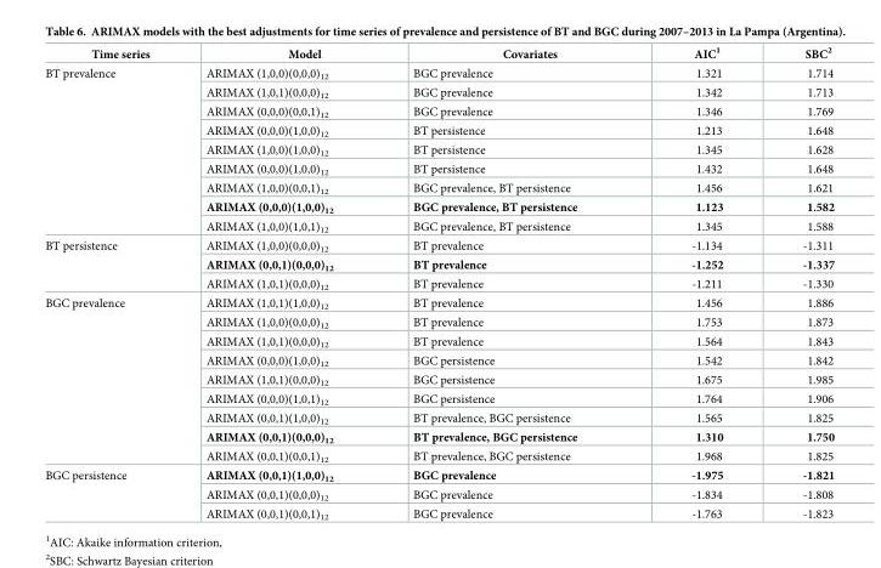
<table><thead><tr><td>Time series</td><td>Model</td><td>Covariates</td><td>AIC<sup>1</sup></td><td>SBC<sup>2</sup></td></tr></thead><tbody><tr><td rowspan="9">BT prevalence</td><td>ARIMAX (1,0,0)(0,0,0)<sub>12</sub></td><td>BGC prevalence</td><td>1.321</td><td>1.714</td></tr><tr><td>ARIMAX (1,0,1)(0,0,0)<sub>12</sub></td><td>BGC prevalence</td><td>1.342</td><td>1.713</td></tr><tr><td>ARIMAX (0,0,0)(0,0,1)<sub>12</sub></td><td>BGC prevalence</td><td>1.346</td><td>1.769</td></tr><tr><td>ARIMAX (0,0,0)(1,0,0)<sub>12</sub></td><td>BT persistence</td><td>1.213</td><td>1.648</td></tr><tr><td>ARIMAX (1,0,0)(1,0,0)<sub>12</sub></td><td>BT persistence</td><td>1.345</td><td>1.628</td></tr><tr><td>ARIMAX (0,0,0)(1,0,0)<sub>12</sub></td><td>BT persistence</td><td>1.432</td><td>1.648</td></tr><tr><td>ARIMAX (1,0,0)(0,0,1)<sub>12</sub></td><td>BGC prevalence, BT persistence</td><td>1.456</td><td>1.621</td></tr><tr><td>ARIMAX (0,0,0)(1,0,0)<sub>12</sub></td><td>BGC prevalence, BT persistence</td><td>1.123</td><td>1.582</td></tr><tr><td>ARIMAX (1,0,0)(1,0,1)<sub>12</sub></td><td>BGC prevalence, BT persistence</td><td>1.345</td><td>1.588</td></tr><tr><td rowspan="3">BT persistence</td><td>ARIMAX (1,0,0)(0,0,0)<sub>12</sub></td><td>BT prevalence</td><td>-1.134</td><td>-1.311</td></tr><tr><td>ARIMAX (0,0,1)(0,0,0)<sub>12</sub></td><td>BT prevalence</td><td>-1.252</td><td>-1.337</td></tr><tr><td>ARIMAX (1,0,1)(0,0,0)<sub>12</sub></td><td>BT prevalence</td><td>-1.211</td><td>-1.330</td></tr><tr><td rowspan="9">BGC prevalence</td><td>ARIMAX (1,0,1)(1,0,0)<sub>12</sub></td><td>BT prevalence</td><td>1.456</td><td>1.886</td></tr><tr><td>ARIMAX (1,0,0)(0,0,0)<sub>12</sub></td><td>BT prevalence</td><td>1.753</td><td>1.873</td></tr><tr><td>ARIMAX (1,0,1)(0,0,0)<sub>12</sub></td><td>BT prevalence</td><td>1.564</td><td>1.843</td></tr><tr><td>ARIMAX (0,0,0)(1,0,0)<sub>12</sub></td><td>BGC persistence</td><td>1.542</td><td>1.842</td></tr><tr><td>ARIMAX (1,0,1)(0,0,0)<sub>12</sub></td><td>BGC persistence</td><td>1.675</td><td>1.985</td></tr><tr><td>ARIMAX (0,0,0)(1,0,1)<sub>12</sub></td><td>BGC persistence</td><td>1.764</td><td>1.906</td></tr><tr><td>ARIMAX (0,0,1)(1,0,0)<sub>12</sub></td><td>BT prevalence, BGC persistence</td><td>1.565</td><td>1.825</td></tr><tr><td>ARIMAX (0,0,1)(0,0,0)<sub>12</sub></td><td>BT prevalence, BGC persistence</td><td>1.310</td><td>1.750</td></tr><tr><td>ARIMAX (0,0,1)(0,0,1)<sub>12</sub></td><td>BT prevalence, BGC persistence</td><td>1.968</td><td>1.825</td></tr><tr><td rowspan="3">BGC persistence</td><td>ARIMAX (0,0,1)(1,0,0)<sub>12</sub></td><td>BGC prevalence</td><td>-1.975</td><td>-1.821</td></tr><tr><td>ARIMAX (0,0,1)(0,0,0)<sub>12</sub></td><td>BGC prevalence</td><td>-1.834</td><td>-1.808</td></tr><tr><td>ARIMAX (0,0,1)(0,0,1)<sub>12</sub></td><td>BGC prevalence</td><td>-1.763</td><td>-1.823</td></tr></tbody></table>